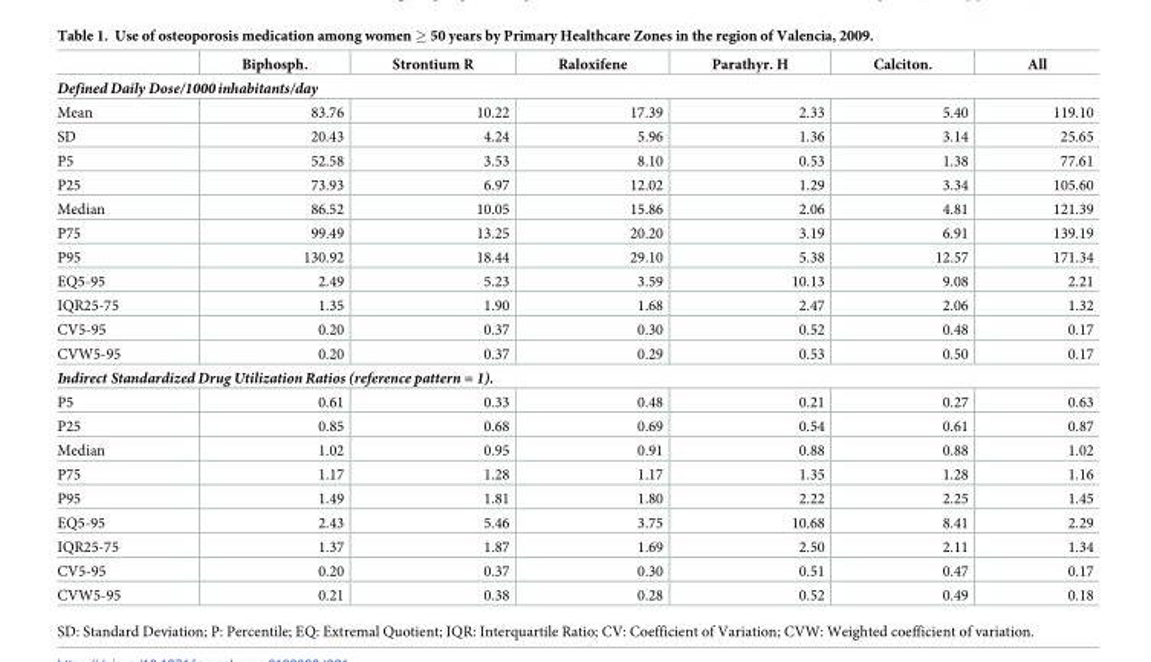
<table><thead><tr><td></td><td>Biphosph.</td><td>Strontium R</td><td>Raloxifene</td><td>Parathyr. H</td><td>Calciton.</td><td>All</td></tr></thead><tbody><tr><td colspan="7">Defined Daily Dose/1000 inhabitants/day</td></tr><tr><td>Mean</td><td>83.76</td><td>10.22</td><td>17.39</td><td>2.33</td><td>5.40</td><td>119.10</td></tr><tr><td>SD</td><td>20.43</td><td>4.24</td><td>5.96</td><td>1.36</td><td>3.14</td><td>25.65</td></tr><tr><td>P5</td><td>52.58</td><td>3.53</td><td>8.10</td><td>0.53</td><td>1.38</td><td>77.61</td></tr><tr><td>P25</td><td>73.93</td><td>6.97</td><td>12.02</td><td>1.29</td><td>3.34</td><td>105.60</td></tr><tr><td>Median</td><td>86.52</td><td>10.05</td><td>15.86</td><td>2.06</td><td>4.81</td><td>121.39</td></tr><tr><td>P75</td><td>99.49</td><td>13.25</td><td>20.20</td><td>3.19</td><td>6.91</td><td>139.19</td></tr><tr><td>P95</td><td>130.92</td><td>18.44</td><td>29.10</td><td>5.38</td><td>12.57</td><td>171.34</td></tr><tr><td>EQ5-95</td><td>2.49</td><td>5.23</td><td>3.59</td><td>10.13</td><td>9.08</td><td>2.21</td></tr><tr><td>IQR25-75</td><td>1.35</td><td>1.90</td><td>1.68</td><td>2.47</td><td>2.06</td><td>1.32</td></tr><tr><td>CV5-95</td><td>0.20</td><td>0.37</td><td>0.30</td><td>0.52</td><td>0.48</td><td>0.17</td></tr><tr><td>CVW5-95</td><td>0.20</td><td>0.37</td><td>0.29</td><td>0.53</td><td>0.50</td><td>0.17</td></tr><tr><td colspan="7">Indirect Standardized Drug Utilization Ratios (reference pattern = 1).</td></tr><tr><td>P5</td><td>0.61</td><td>0.33</td><td>0.48</td><td>0.21</td><td>0.27</td><td>0.63</td></tr><tr><td>P25</td><td>0.85</td><td>0.68</td><td>0.69</td><td>0.54</td><td>0.61</td><td>0.87</td></tr><tr><td>Median</td><td>1.02</td><td>0.95</td><td>0.91</td><td>0.88</td><td>0.88</td><td>1.02</td></tr><tr><td>P75</td><td>1.17</td><td>1.28</td><td>1.17</td><td>1.35</td><td>1.28</td><td>1.16</td></tr><tr><td>P95</td><td>1.49</td><td>1.81</td><td>1.80</td><td>2.22</td><td>2.25</td><td>1.45</td></tr><tr><td>EQ5-95</td><td>2.43</td><td>5.46</td><td>3.75</td><td>10.68</td><td>8.41</td><td>2.29</td></tr><tr><td>IQR25-75</td><td>1.37</td><td>1.87</td><td>1.69</td><td>2.50</td><td>2.11</td><td>1.34</td></tr><tr><td>CV5-95</td><td>0.20</td><td>0.37</td><td>0.30</td><td>0.51</td><td>0.47</td><td>0.17</td></tr><tr><td>CVW5-95</td><td>0.21</td><td>0.38</td><td>0.28</td><td>0.52</td><td>0.49</td><td>0.18</td></tr></tbody></table>